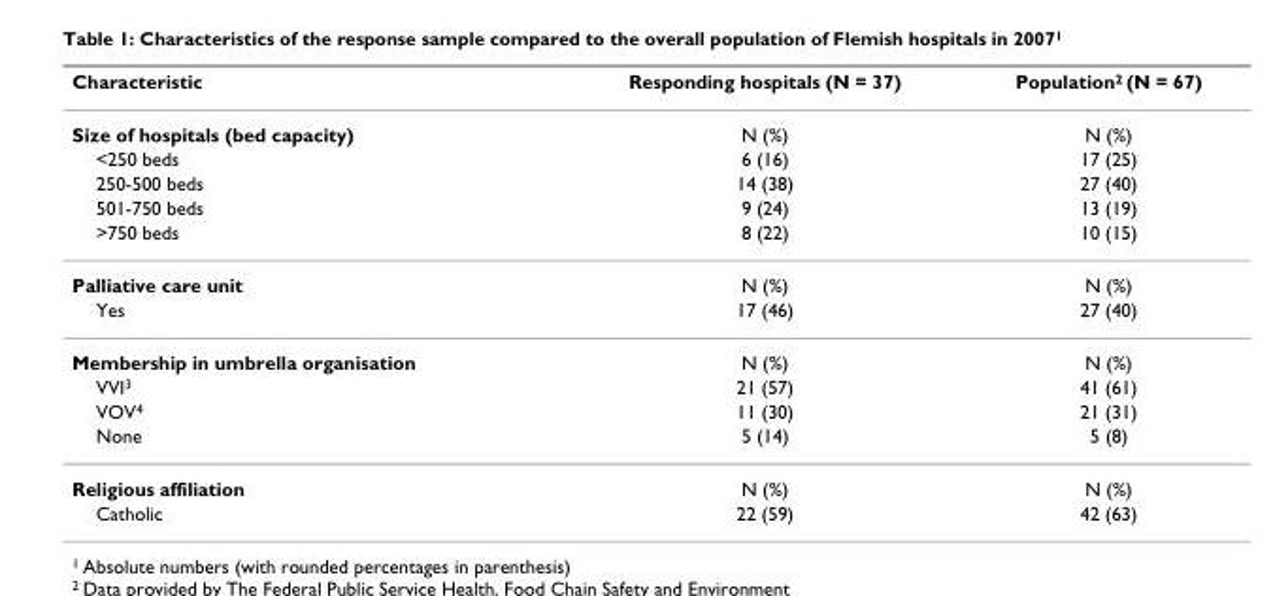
<table><thead><tr><td>Characteristic</td><td>Responding hospitals (N = 37)</td><td>Population<sup>2</sup> (N = 67)</td></tr></thead><tbody><tr><td>Size of hospitals (bed capacity)</td><td>N (%)</td><td>N (%)</td></tr><tr><td>&lt;250 beds</td><td>6 (16)</td><td>17 (25)</td></tr><tr><td>250-500 beds</td><td>14 (38)</td><td>27 (40)</td></tr><tr><td>501-750 beds</td><td>9 (24)</td><td>13 (19)</td></tr><tr><td>&gt;750 beds</td><td>8 (22)</td><td>10 (15)</td></tr><tr><td>Palliative care unit</td><td>N (%)</td><td>N (%)</td></tr><tr><td>Yes</td><td>17 (46)</td><td>27 (40)</td></tr><tr><td>Membership in umbrella organisation</td><td>N (%)</td><td>N (%)</td></tr><tr><td>VVI<sup>3</sup></td><td>21 (57)</td><td>41 (61)</td></tr><tr><td>VOV<sup>4</sup></td><td>11 (30)</td><td>21 (31)</td></tr><tr><td>None</td><td>5 (14)</td><td>5 (8)</td></tr><tr><td>Religious affiliation</td><td>N (%)</td><td>N (%)</td></tr><tr><td>Catholic</td><td>22 (59)</td><td>42 (63)</td></tr></tbody></table>